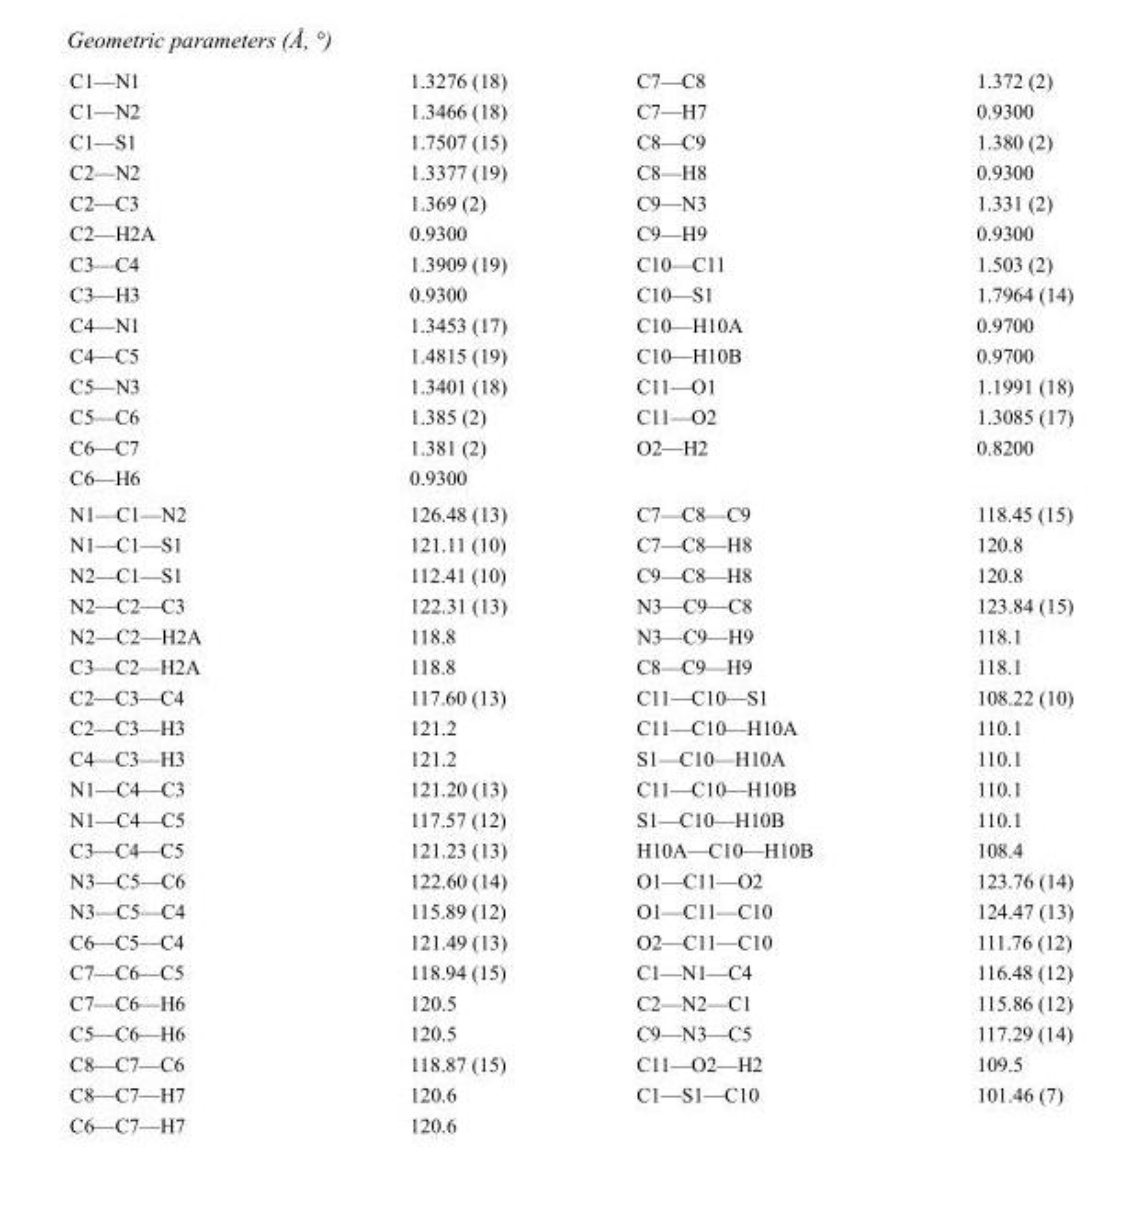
<table><tbody><tr><td>C1—N1</td><td>1.3276 (18)</td><td>C7—C8</td><td>1.372 (2)</td></tr><tr><td>C1—N2</td><td>1.3466 (18)</td><td>C7—H7</td><td>0.9300</td></tr><tr><td>C1—S1</td><td>1.7507 (15)</td><td>C8—C9</td><td>1.380 (2)</td></tr><tr><td>C2—N2</td><td>1.3377 (19)</td><td>C8—H8</td><td>0.9300</td></tr><tr><td>C2—C3</td><td>1.369 (2)</td><td>C9—N3</td><td>1.331 (2)</td></tr><tr><td>C2—H2A</td><td>0.9300</td><td>C9—H9</td><td>0.9300</td></tr><tr><td>C3—C4</td><td>1.3909 (19)</td><td>C10—C11</td><td>1.503 (2)</td></tr><tr><td>C3—H3</td><td>0.9300</td><td>C10—S1</td><td>1.7964 (14)</td></tr><tr><td>C4—N1</td><td>1.3453 (17)</td><td>C10—H10A</td><td>0.9700</td></tr><tr><td>C4—C5</td><td>1.4815 (19)</td><td>C10—H10B</td><td>0.9700</td></tr><tr><td>C5—N3</td><td>1.3401 (18)</td><td>C11—O1</td><td>1.1991 (18)</td></tr><tr><td>C5—C6</td><td>1.385 (2)</td><td>C11—O2</td><td>1.3085 (17)</td></tr><tr><td>C6—C7</td><td>1.381 (2)</td><td>O2—H2</td><td>0.8200</td></tr><tr><td>C6—H6</td><td>0.9300</td><td></td><td></td></tr><tr><td>N1—C1—N2</td><td>126.48 (13)</td><td>C7—C8—C9</td><td>118.45 (15)</td></tr><tr><td>N1—C1—S1</td><td>121.11 (10)</td><td>C7—C8—H8</td><td>120.8</td></tr><tr><td>N2—C1—S1</td><td>112.41 (10)</td><td>C9—C8—H8</td><td>120.8</td></tr><tr><td>N2—C2—C3</td><td>122.31 (13)</td><td>N3—C9—C8</td><td>123.84 (15)</td></tr><tr><td>N2—C2—H2A</td><td>118.8</td><td>N3—C9—H9</td><td>118.1</td></tr><tr><td>C3—C2—H2A</td><td>118.8</td><td>C8—C9—H9</td><td>118.1</td></tr><tr><td>C2—C3—C4</td><td>117.60 (13)</td><td>C11—C10—S1</td><td>108.22 (10)</td></tr><tr><td>C2—C3—H3</td><td>121.2</td><td>C11—C10—H10A</td><td>110.1</td></tr><tr><td>C4—C3—H3</td><td>121.2</td><td>S1—C10—H10A</td><td>110.1</td></tr><tr><td>N1—C4—C3</td><td>121.20 (13)</td><td>C11—C10—H10B</td><td>110.1</td></tr><tr><td>N1—C4—C5</td><td>117.57 (12)</td><td>S1—C10—H10B</td><td>110.1</td></tr><tr><td>C3—C4—C5</td><td>121.23 (13)</td><td>H10A—C10—H10B</td><td>108.4</td></tr><tr><td>N3—C5—C6</td><td>122.60 (14)</td><td>O1—C11—O2</td><td>123.76 (14)</td></tr><tr><td>N3—C5—C4</td><td>115.89 (12)</td><td>O1—C11—C10</td><td>124.47 (13)</td></tr><tr><td>C6—C5—C4</td><td>121.49 (13)</td><td>O2—C11—C10</td><td>111.76 (12)</td></tr><tr><td>C7—C6—C5</td><td>118.94 (15)</td><td>C1—N1—C4</td><td>116.48 (12)</td></tr><tr><td>C7—C6—H6</td><td>120.5</td><td>C2—N2—C1</td><td>115.86 (12)</td></tr><tr><td>C5—C6—H6</td><td>120.5</td><td>C9—N3—C5</td><td>117.29 (14)</td></tr><tr><td>C8—C7—C6</td><td>118.87 (15)</td><td>C11—O2—H2</td><td>109.5</td></tr><tr><td>C8—C7—H7</td><td>120.6</td><td>C1—S1—C10</td><td>101.46 (7)</td></tr><tr><td>C6—C7—H7</td><td>120.6</td><td></td><td></td></tr></tbody></table>